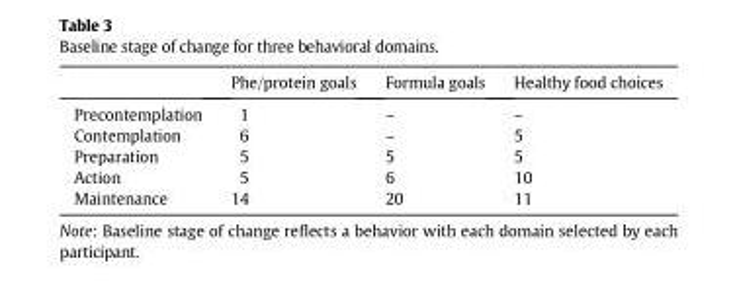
<table><thead><tr><td></td><td>Phe/protein goals</td><td>Formula goals</td><td>Healthy food choices</td></tr></thead><tbody><tr><td>Precontemplation</td><td>1</td><td>–</td><td>–</td></tr><tr><td>Contemplation</td><td>6</td><td>–</td><td>5</td></tr><tr><td>Preparation</td><td>5</td><td>5</td><td>5</td></tr><tr><td>Action</td><td>5</td><td>6</td><td>10</td></tr><tr><td>Maintenance</td><td>14</td><td>20</td><td>11</td></tr></tbody></table>